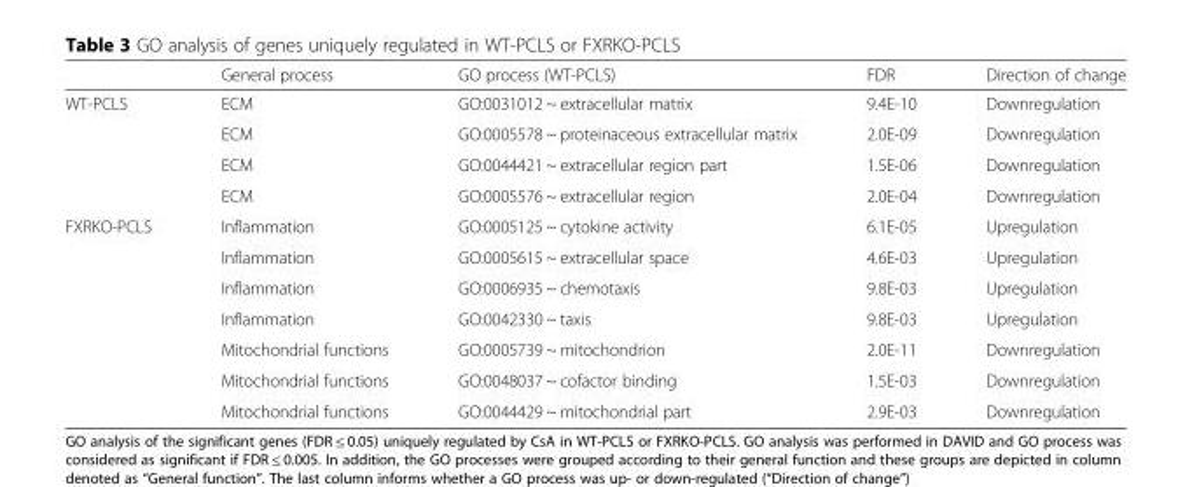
<table><thead><tr><td></td><td>General process</td><td>GO process (WT-PCLS)</td><td>FDR</td><td>Direction of change</td></tr></thead><tbody><tr><td rowspan="4">WT-PCLS</td><td>ECM</td><td>GO:0031012 ~ extracellular matrix</td><td>9.4E-10</td><td>Downregulation</td></tr><tr><td>ECM</td><td>GO:0005578 ~ proteinaceous extracellular matrix</td><td>2.0E-09</td><td>Downregulation</td></tr><tr><td>ECM</td><td>GO:0044421 ~ extracellular region part</td><td>1.5E-06</td><td>Downregulation</td></tr><tr><td>ECM</td><td>GO:0005576 ~ extracellular region</td><td>2.0E-04</td><td>Downregulation</td></tr><tr><td rowspan="7">FXRKO-PCLS</td><td>Inflammation</td><td>GO:0005125 ~ cytokine activity</td><td>6.1E-05</td><td>Upregulation</td></tr><tr><td>Inflammation</td><td>GO:0005615 ~ extracellular space</td><td>4.6E-03</td><td>Upregulation</td></tr><tr><td>Inflammation</td><td>GO:0006935 ~ chemotaxis</td><td>9.8E-03</td><td>Upregulation</td></tr><tr><td>Inflammation</td><td>GO:0042330 ~ taxis</td><td>9.8E-03</td><td>Upregulation</td></tr><tr><td>Mitochondrial functions</td><td>GO:0005739 ~ mitochondrion</td><td>2.0E-11</td><td>Downregulation</td></tr><tr><td>Mitochondrial functions</td><td>GO:0048037 ~ cofactor binding</td><td>1.5E-03</td><td>Downregulation</td></tr><tr><td>Mitochondrial functions</td><td>GO:0044429 ~ mitochondrial part</td><td>2.9E-03</td><td>Downregulation</td></tr></tbody></table>